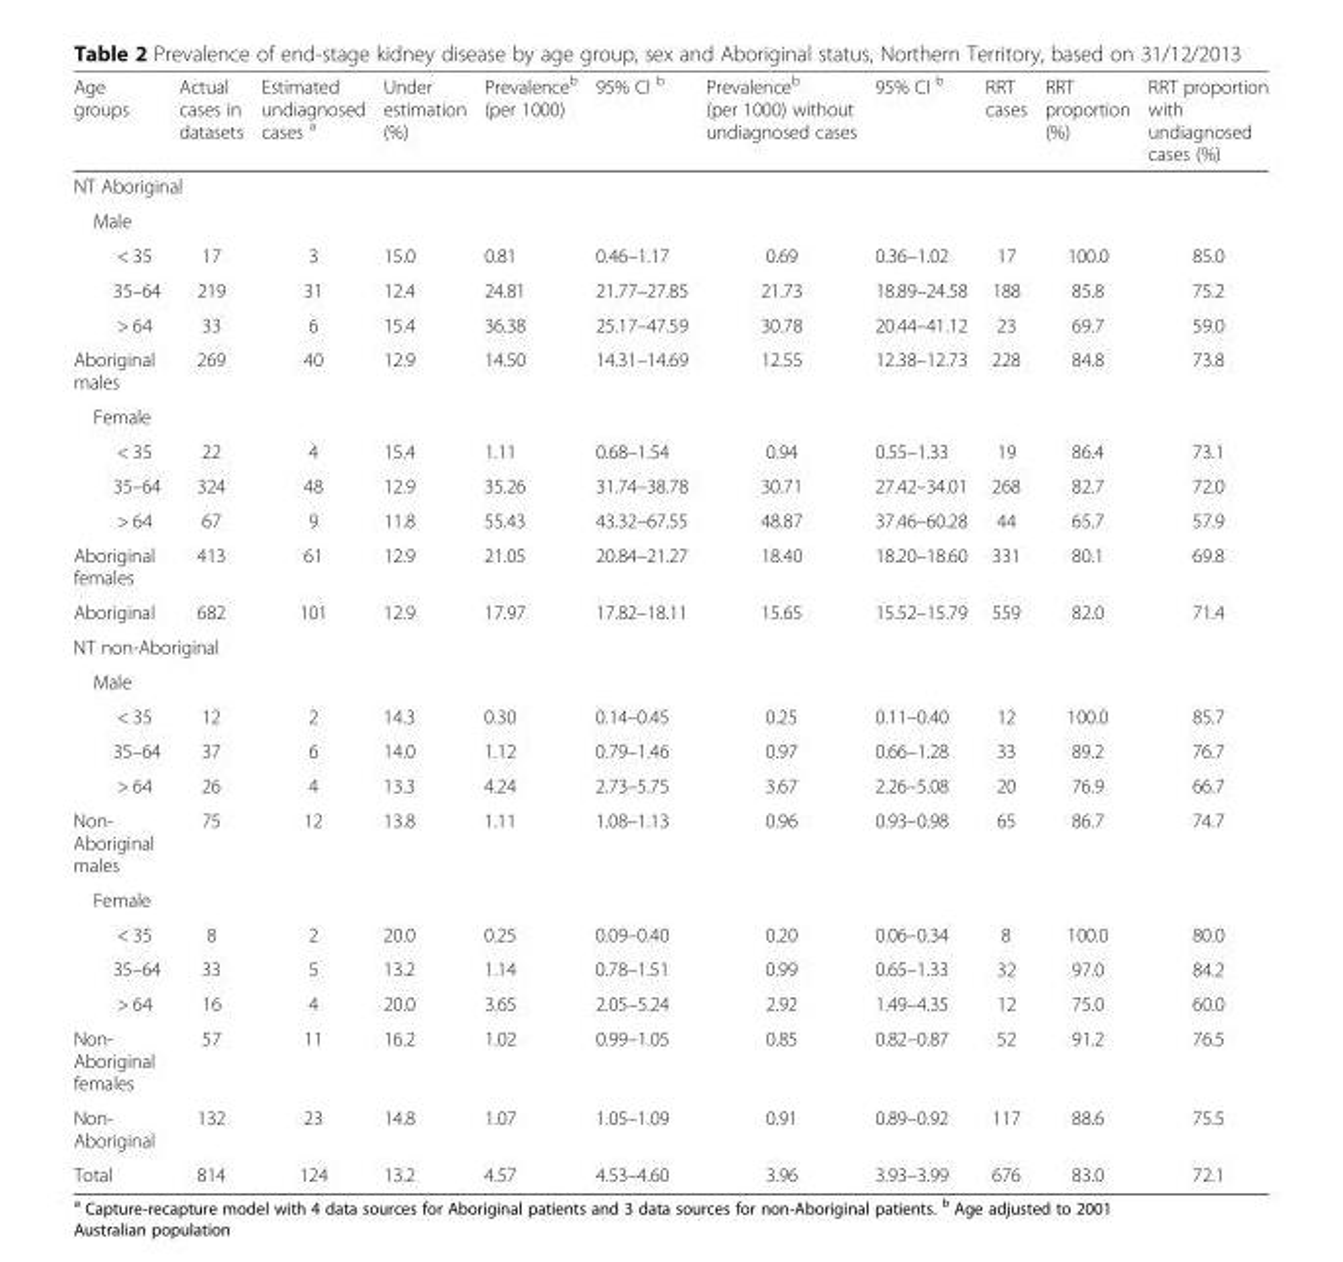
<table><thead><tr><td>Age groups</td><td>Actual cases in datasets</td><td>Estimated undiagnosed cases <sup>a</sup></td><td>Under estimation (%)</td><td>Prevalence<sup>b</sup> (per 1000)</td><td>95% CI <sup>b</sup></td><td>Prevalence<sup>b</sup> (per 1000) without undiagnosed cases</td><td>95% CI <sup>b</sup></td><td>RRT cases</td><td>RRT proportion (%)</td><td>RRT proportion with undiagnosed cases (%)</td></tr></thead><tbody><tr><td colspan="11">NT Aboriginal</td></tr><tr><td colspan="11">Male</td></tr><tr><td>&lt; 35</td><td>17</td><td>3</td><td>15.0</td><td>0.81</td><td>0.46–1.17</td><td>0.69</td><td>0.36–1.02</td><td>17</td><td>100.0</td><td>85.0</td></tr><tr><td>35–64</td><td>219</td><td>31</td><td>12.4</td><td>24.81</td><td>21.77–27.85</td><td>21.73</td><td>18.89–24.58</td><td>188</td><td>85.8</td><td>75.2</td></tr><tr><td>&gt; 64</td><td>33</td><td>6</td><td>15.4</td><td>36.38</td><td>25.17–47.59</td><td>30.78</td><td>20.44–41.12</td><td>23</td><td>69.7</td><td>59.0</td></tr><tr><td>Aboriginal males</td><td>269</td><td>40</td><td>12.9</td><td>14.50</td><td>14.31–14.69</td><td>12.55</td><td>12.38–12.73</td><td>228</td><td>84.8</td><td>73.8</td></tr><tr><td colspan="11">Female</td></tr><tr><td>&lt; 35</td><td>22</td><td>4</td><td>15.4</td><td>1.11</td><td>0.68–1.54</td><td>0.94</td><td>0.55–1.33</td><td>19</td><td>86.4</td><td>73.1</td></tr><tr><td>35–64</td><td>324</td><td>48</td><td>12.9</td><td>35.26</td><td>31.74–38.78</td><td>30.71</td><td>27.42–34.01</td><td>268</td><td>82.7</td><td>72.0</td></tr><tr><td>&gt; 64</td><td>67</td><td>9</td><td>11.8</td><td>55.43</td><td>43.32–67.55</td><td>48.87</td><td>37.46–60.28</td><td>44</td><td>65.7</td><td>57.9</td></tr><tr><td>Aboriginal females</td><td>413</td><td>61</td><td>12.9</td><td>21.05</td><td>20.84–21.27</td><td>18.40</td><td>18.20–18.60</td><td>331</td><td>80.1</td><td>69.8</td></tr><tr><td>Aboriginal</td><td>682</td><td>101</td><td>12.9</td><td>17.97</td><td>17.82–18.11</td><td>15.65</td><td>15.52–15.79</td><td>559</td><td>82.0</td><td>71.4</td></tr><tr><td colspan="11">NT non-Aboriginal</td></tr><tr><td colspan="11">Male</td></tr><tr><td>&lt; 35</td><td>12</td><td>2</td><td>14.3</td><td>0.30</td><td>0.14–0.45</td><td>0.25</td><td>0.11–0.40</td><td>12</td><td>100.0</td><td>85.7</td></tr><tr><td>35–64</td><td>37</td><td>6</td><td>14.0</td><td>1.12</td><td>0.79–1.46</td><td>0.97</td><td>0.66–1.28</td><td>33</td><td>89.2</td><td>76.7</td></tr><tr><td>&gt; 64</td><td>26</td><td>4</td><td>13.3</td><td>4.24</td><td>2.73–5.75</td><td>3.67</td><td>2.26–5.08</td><td>20</td><td>76.9</td><td>66.7</td></tr><tr><td>Non- Aboriginal males</td><td>75</td><td>12</td><td>13.8</td><td>1.11</td><td>1.08–1.13</td><td>0.96</td><td>0.93–0.98</td><td>65</td><td>86.7</td><td>74.7</td></tr><tr><td colspan="11">Female</td></tr><tr><td>&lt; 35</td><td>8</td><td>2</td><td>20.0</td><td>0.25</td><td>0.09–0.40</td><td>0.20</td><td>0.06–0.34</td><td>8</td><td>100.0</td><td>80.0</td></tr><tr><td>35–64</td><td>33</td><td>5</td><td>13.2</td><td>1.14</td><td>0.78–1.51</td><td>0.99</td><td>0.65–1.33</td><td>32</td><td>97.0</td><td>84.2</td></tr><tr><td>&gt; 64</td><td>16</td><td>4</td><td>20.0</td><td>3.65</td><td>2.05–5.24</td><td>2.92</td><td>1.49–4.35</td><td>12</td><td>75.0</td><td>60.0</td></tr><tr><td>Non- Aboriginal females</td><td>57</td><td>11</td><td>16.2</td><td>1.02</td><td>0.99–1.05</td><td>0.85</td><td>0.82–0.87</td><td>52</td><td>91.2</td><td>76.5</td></tr><tr><td>Non- Aboriginal</td><td>132</td><td>23</td><td>14.8</td><td>1.07</td><td>1.05–1.09</td><td>0.91</td><td>0.89–0.92</td><td>117</td><td>88.6</td><td>75.5</td></tr><tr><td>Total</td><td>814</td><td>124</td><td>13.2</td><td>4.57</td><td>4.53–4.60</td><td>3.96</td><td>3.93–3.99</td><td>676</td><td>83.0</td><td>72.1</td></tr></tbody></table>